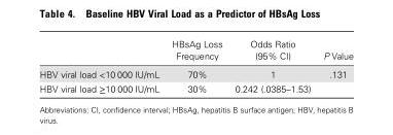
<table><thead><tr><td></td><td>HBsAg Loss Frequency</td><td>Odds Ratio (95% CI)</td><td>P Value</td></tr></thead><tbody><tr><td>HBV viral load &lt;10 000 IU/mL</td><td>70%</td><td>1</td><td>.131</td></tr><tr><td>HBV viral load ≥10 000 IU/mL</td><td>30%</td><td>0.242 (.0385–1.53)</td><td></td></tr></tbody></table>